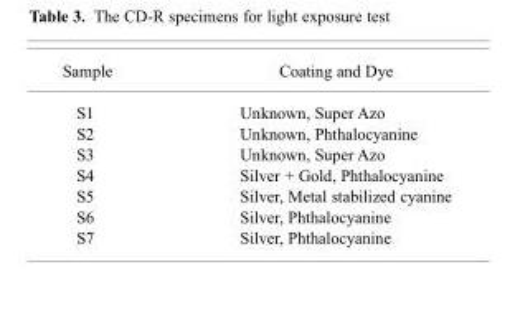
<table><thead><tr><td>Sample</td><td>Coating and Dye</td></tr></thead><tbody><tr><td>S1</td><td>Unknown, Super Azo</td></tr><tr><td>S2</td><td>Unknown, Phthalocyanine</td></tr><tr><td>S3</td><td>Unknown, Super Azo</td></tr><tr><td>S4</td><td>Silver + Gold, Phthalocyanine</td></tr><tr><td>S5</td><td>Silver, Metal stabilized cyanine</td></tr><tr><td>S6</td><td>Silver, Phthalocyanine</td></tr><tr><td>S7</td><td>Silver, Phthalocyanine</td></tr></tbody></table>